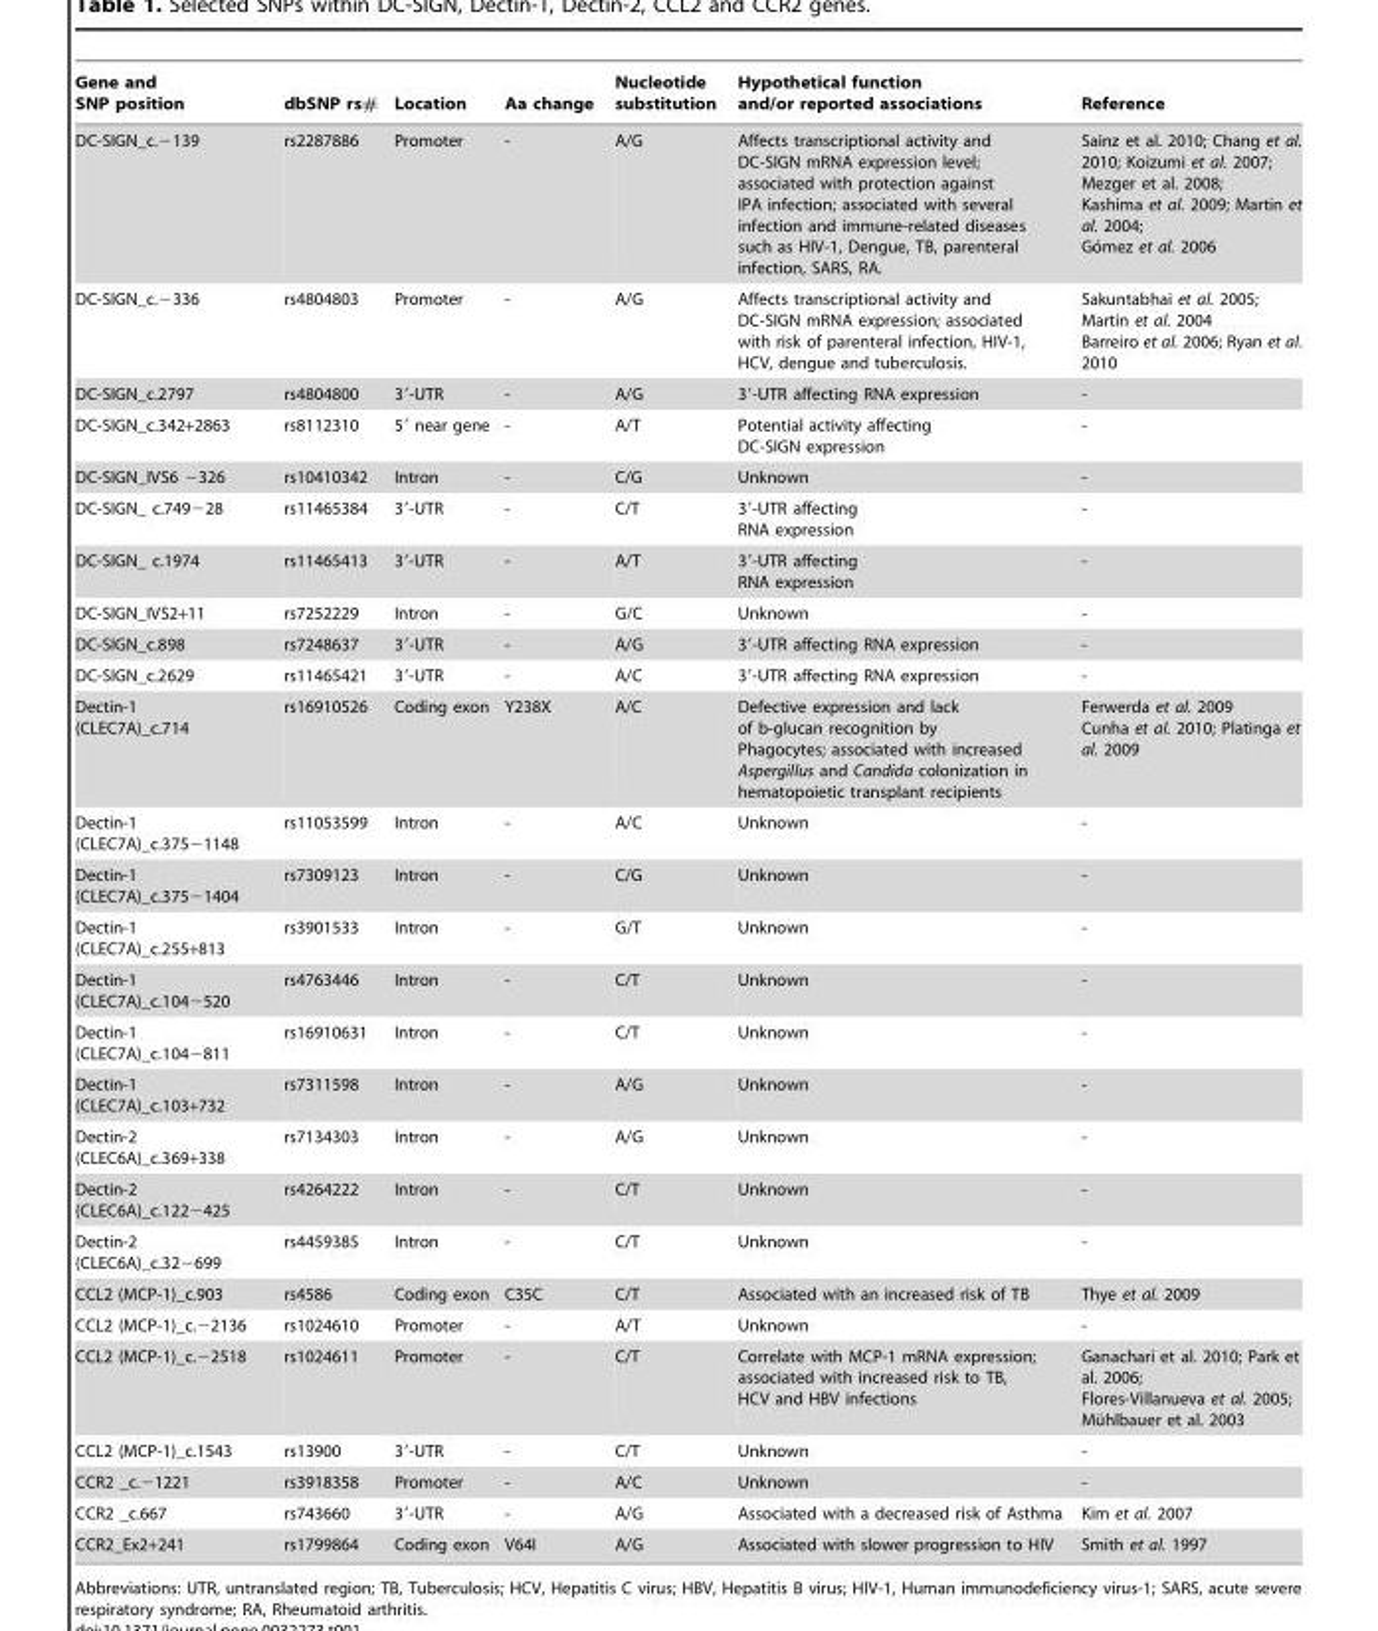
<table><thead><tr><td>Gene and SNP position</td><td>dbSNP rs#</td><td>Location</td><td>Aa change</td><td>Nucleotide substitution</td><td>Hypothetical function and/or reported associations</td><td>Reference</td></tr></thead><tbody><tr><td>DC-SIGN_c.−139</td><td>rs2287886</td><td>Promoter</td><td>-</td><td>A/G</td><td>Affects transcriptional activity and DC-SIGN mRNA expression level; associated with protection against IPA infection; associated with several infection and immune-related diseases such as HIV-1, Dengue, TB, parenteral infection, SARS, RA.</td><td>Sainz et al. 2010; Chang et al. 2010; Koizumi et al. 2007; Mezger et al. 2008; Kashima et al. 2009; Martin et al. 2004; Go´mez et al. 2006</td></tr><tr><td>DC-SIGN_c.−336</td><td>rs4804803</td><td>Promoter</td><td>-</td><td>A/G</td><td>Affects transcriptional activity and DC-SIGN mRNA expression; associated with risk of parenteral infection, HIV-1, HCV, dengue and tuberculosis.</td><td>Sakuntabhai et al. 2005; Martin et al. 2004 Barreiro et al. 2006; Ryan et al. 2010</td></tr><tr><td>DC-SIGN_c.2797</td><td>rs4804800</td><td>3′-UTR</td><td>-</td><td>A/G</td><td>3′-UTR affecting RNA expression</td><td>-</td></tr><tr><td>DC-SIGN_c.342+2863</td><td>rs8112310</td><td>5′ near gene</td><td>-</td><td>A/T</td><td>Potential activity affecting DC-SIGN expression</td><td>-</td></tr><tr><td>DC-SIGN_IVS6 −326</td><td>rs10410342</td><td>Intron</td><td>-</td><td>C/G</td><td>Unknown</td><td>-</td></tr><tr><td>DC-SIGN_ c.749−28</td><td>rs11465384</td><td>3′-UTR</td><td>-</td><td>C/T</td><td>3′-UTR affecting RNA expression</td><td>-</td></tr><tr><td>DC-SIGN_ c.1974</td><td>rs11465413</td><td>3′-UTR</td><td>-</td><td>A/T</td><td>3′-UTR affecting RNA expression</td><td>-</td></tr><tr><td>DC-SIGN_IVS2+11</td><td>rs7252229</td><td>Intron</td><td>-</td><td>G/C</td><td>Unknown</td><td>-</td></tr><tr><td>DC-SIGN_c.898</td><td>rs7248637</td><td>3′-UTR</td><td>-</td><td>A/G</td><td>3′-UTR affecting RNA expression</td><td>-</td></tr><tr><td>DC-SIGN_c.2629</td><td>rs11465421</td><td>3′-UTR</td><td>-</td><td>A/C</td><td>3′-UTR affecting RNA expression</td><td>-</td></tr><tr><td>Dectin-1 (CLEC7A)_c.714</td><td>rs16910526</td><td>Coding exon</td><td>Y238X</td><td>A/C</td><td>Defective expression and lack of b-glucan recognition by Phagocytes; associated with increased Aspergillus and Candida colonization in hematopoietic transplant recipients</td><td>Ferwerda et al. 2009 Cunha et al. 2010; Platinga et al. 2009</td></tr><tr><td>Dectin-1 (CLEC7A)_c.375−1148</td><td>rs11053599</td><td>Intron</td><td>-</td><td>A/C</td><td>Unknown</td><td>-</td></tr><tr><td>Dectin-1 (CLEC7A)_c.375−1404</td><td>rs7309123</td><td>Intron</td><td>-</td><td>C/G</td><td>Unknown</td><td>-</td></tr><tr><td>Dectin-1 (CLEC7A)_c.255+813</td><td>rs3901533</td><td>Intron</td><td>-</td><td>G/T</td><td>Unknown</td><td>-</td></tr><tr><td>Dectin-1 (CLEC7A)_c.104−520</td><td>rs4763446</td><td>Intron</td><td>-</td><td>C/T</td><td>Unknown</td><td>-</td></tr><tr><td>Dectin-1 (CLEC7A)_c.104−811</td><td>rs16910631</td><td>Intron</td><td>-</td><td>C/T</td><td>Unknown</td><td>-</td></tr><tr><td>Dectin-1 (CLEC7A)_c.103+732</td><td>rs7311598</td><td>Intron</td><td>-</td><td>A/G</td><td>Unknown</td><td>-</td></tr><tr><td>Dectin-2 (CLEC6A)_c.369+338</td><td>rs7134303</td><td>Intron</td><td>-</td><td>A/G</td><td>Unknown</td><td>-</td></tr><tr><td>Dectin-2 (CLEC6A)_c.122−425</td><td>rs4264222</td><td>Intron</td><td>-</td><td>C/T</td><td>Unknown</td><td>-</td></tr><tr><td>Dectin-2 (CLEC6A)_c.32−699</td><td>rs4459385</td><td>Intron</td><td>-</td><td>C/T</td><td>Unknown</td><td>-</td></tr><tr><td>CCL2 (MCP-1)_c.903</td><td>rs4586</td><td>Coding exon</td><td>C35C</td><td>C/T</td><td>Associated with an increased risk of TB</td><td>Thye et al. 2009</td></tr><tr><td>CCL2 (MCP-1)_c.−2136</td><td>rs1024610</td><td>Promoter</td><td>-</td><td>A/T</td><td>Unknown</td><td>-</td></tr><tr><td>CCL2 (MCP-1)_c.−2518</td><td>rs1024611</td><td>Promoter</td><td>-</td><td>C/T</td><td>Correlate with MCP-1 mRNA expression; associated with increased risk to TB, HCV and HBV infections</td><td>Ganachari et al. 2010; Park et al. 2006; Flores-Villanueva et al. 2005; Mu¨hlbauer et al. 2003</td></tr><tr><td>CCL2 (MCP-1)_c.1543</td><td>rs13900</td><td>3′-UTR</td><td>-</td><td>C/T</td><td>Unknown</td><td>-</td></tr><tr><td>CCR2 _c.−1221</td><td>rs3918358</td><td>Promoter</td><td>-</td><td>A/C</td><td>Unknown</td><td>-</td></tr><tr><td>CCR2 _c.667</td><td>rs743660</td><td>3′-UTR</td><td>-</td><td>A/G</td><td>Associated with a decreased risk of Asthma</td><td>Kim et al. 2007</td></tr><tr><td>CCR2_Ex2+241</td><td>rs1799864</td><td>Coding exon</td><td>V64I</td><td>A/G</td><td>Associated with slower progression to HIV</td><td>Smith et al. 1997</td></tr></tbody></table>